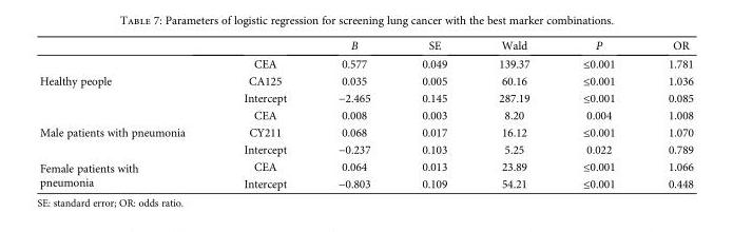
<table><thead><tr><td></td><td></td><td>B</td><td>SE</td><td>Wald</td><td>P</td><td>OR</td></tr></thead><tbody><tr><td rowspan="3">Healthy people</td><td>CEA</td><td>0.577</td><td>0.049</td><td>139.37</td><td>≤0.001</td><td>1.781</td></tr><tr><td>CA125</td><td>0.035</td><td>0.005</td><td>60.16</td><td>≤0.001</td><td>1.036</td></tr><tr><td>Intercept</td><td>−2.465</td><td>0.145</td><td>287.19</td><td>≤0.001</td><td>0.085</td></tr><tr><td rowspan="3">Male patients with pneumonia</td><td>CEA</td><td>0.008</td><td>0.003</td><td>8.20</td><td>0.004</td><td>1.008</td></tr><tr><td>CY211</td><td>0.068</td><td>0.017</td><td>16.12</td><td>≤0.001</td><td>1.070</td></tr><tr><td>Intercept</td><td>−0.237</td><td>0.103</td><td>5.25</td><td>0.022</td><td>0.789</td></tr><tr><td rowspan="2">Female patients with pneumonia</td><td>CEA</td><td>0.064</td><td>0.013</td><td>23.89</td><td>≤0.001</td><td>1.066</td></tr><tr><td>Intercept</td><td>−0.803</td><td>0.109</td><td>54.21</td><td>≤0.001</td><td>0.448</td></tr></tbody></table>